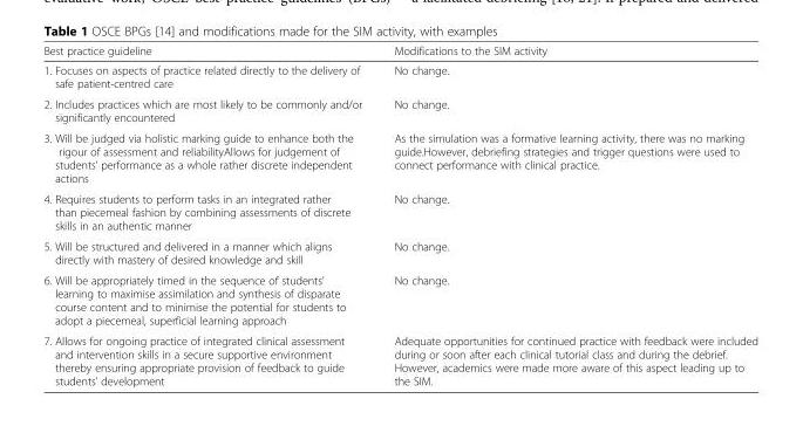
<table><thead><tr><td>Best practice guideline</td><td>Modifications to the SIM activity</td></tr></thead><tbody><tr><td>1. Focuses on aspects of practice related directly to the delivery of safe patient-centred care</td><td>No change.</td></tr><tr><td>2. Includes practices which are most likely to be commonly and/or significantly encountered</td><td>No change.</td></tr><tr><td>3. Will be judged via holistic marking guide to enhance both the rigour of assessment and reliabilityAllows for judgement of students’ performance as a whole rather discrete independent actions</td><td>As the simulation was a formative learning activity, there was no marking guide.However, debriefing strategies and trigger questions were used to connect performance with clinical practice.</td></tr><tr><td>4. Requires students to perform tasks in an integrated rather than piecemeal fashion by combining assessments of discrete skills in an authentic manner</td><td>No change.</td></tr><tr><td>5. Will be structured and delivered in a manner which aligns directly with mastery of desired knowledge and skill</td><td>No change.</td></tr><tr><td>6. Will be appropriately timed in the sequence of students’ learning to maximise assimilation and synthesis of disparate course content and to minimise the potential for students to adopt a piecemeal, superficial learning approach</td><td>No change.</td></tr><tr><td>7. Allows for ongoing practice of integrated clinical assessment and intervention skills in a secure supportive environment thereby ensuring appropriate provision of feedback to guide students’ development</td><td>Adequate opportunities for continued practice with feedback were included during or soon after each clinical tutorial class and during the debrief. However, academics were made more aware of this aspect leading up to the SIM.</td></tr></tbody></table>